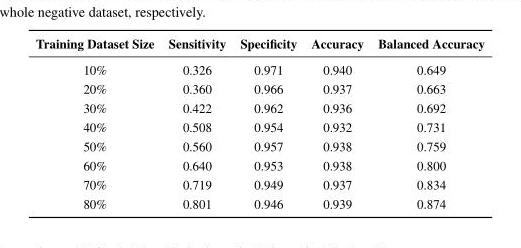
<table><thead><tr><td>Training Dataset Size</td><td>Sensitivity</td><td>Specificity</td><td>Accuracy</td><td>Balanced Accuracy</td></tr></thead><tbody><tr><td>10%</td><td>0.326</td><td>0.971</td><td>0.940</td><td>0.649</td></tr><tr><td>20%</td><td>0.360</td><td>0.966</td><td>0.937</td><td>0.663</td></tr><tr><td>30%</td><td>0.422</td><td>0.962</td><td>0.936</td><td>0.692</td></tr><tr><td>40%</td><td>0.508</td><td>0.954</td><td>0.932</td><td>0.731</td></tr><tr><td>50%</td><td>0.560</td><td>0.957</td><td>0.938</td><td>0.759</td></tr><tr><td>60%</td><td>0.640</td><td>0.953</td><td>0.938</td><td>0.800</td></tr><tr><td>70%</td><td>0.719</td><td>0.949</td><td>0.937</td><td>0.834</td></tr><tr><td>80%</td><td>0.801</td><td>0.946</td><td>0.939</td><td>0.874</td></tr></tbody></table>